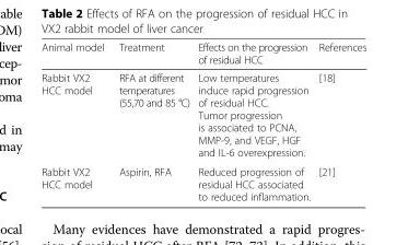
<table><thead><tr><td>Animal model</td><td>Treatment</td><td>Effects on the progression of residual HCC</td><td>References</td></tr></thead><tbody><tr><td>Rabbit VX2 HCC model</td><td>RFA at different temperatures (55,70 and 85 °C)</td><td>Low temperatures induce rapid progression of residual HCC. Tumor progression is associated to PCNA, MMP-9, and VEGF, HGF and IL-6 overexpression.</td><td>[18]</td></tr><tr><td>Rabbit VX2 HCC model</td><td>Aspirin, RFA</td><td>Reduced progression of residual HCC associated to reduced inflammation.</td><td>[21]</td></tr></tbody></table>